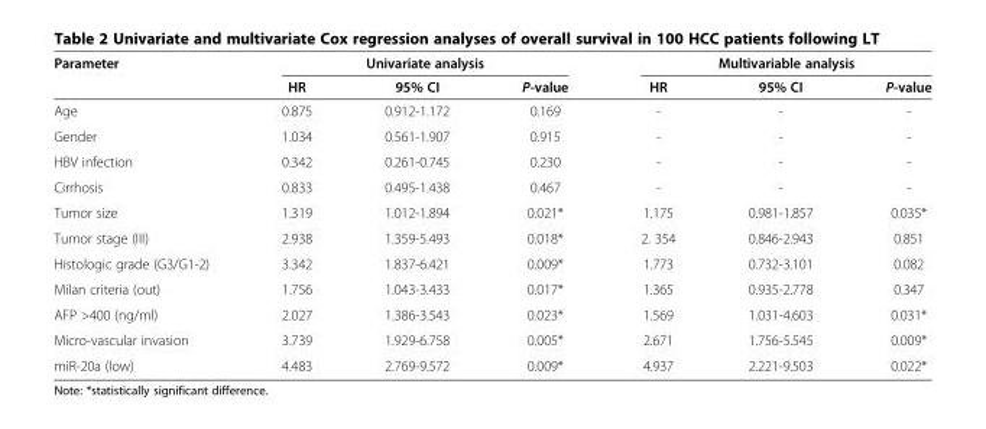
<table><thead><tr><td rowspan="2">Parameter</td><td colspan="3">Univariate analysis</td><td colspan="3">Multivariable analysis</td></tr><tr><td>HR</td><td>95% CI</td><td>P-value</td><td>HR</td><td>95% CI</td><td>P-value</td></tr></thead><tbody><tr><td>Age</td><td>0.875</td><td>0.912-1.172</td><td>0.169</td><td>-</td><td>-</td><td>-</td></tr><tr><td>Gender</td><td>1.034</td><td>0.561-1.907</td><td>0.915</td><td>-</td><td>-</td><td>-</td></tr><tr><td>HBV infection</td><td>0.342</td><td>0.261-0.745</td><td>0.230</td><td>-</td><td>-</td><td>-</td></tr><tr><td>Cirrhosis</td><td>0.833</td><td>0.495-1.438</td><td>0.467</td><td>-</td><td>-</td><td>-</td></tr><tr><td>Tumor size</td><td>1.319</td><td>1.012-1.894</td><td>0.021*</td><td>1.175</td><td>0.981-1.857</td><td>0.035*</td></tr><tr><td>Tumor stage (III)</td><td>2.938</td><td>1.359-5.493</td><td>0.018*</td><td>2. 354</td><td>0.846-2.943</td><td>0.851</td></tr><tr><td>Histologic grade (G3/G1-2)</td><td>3.342</td><td>1.837-6.421</td><td>0.009*</td><td>1.773</td><td>0.732-3.101</td><td>0.082</td></tr><tr><td>Milan criteria (out)</td><td>1.756</td><td>1.043-3.433</td><td>0.017*</td><td>1.365</td><td>0.935-2.778</td><td>0.347</td></tr><tr><td>AFP &gt;400 (ng/ml)</td><td>2.027</td><td>1.386-3.543</td><td>0.023*</td><td>1.569</td><td>1.031-4.603</td><td>0.031*</td></tr><tr><td>Micro-vascular invasion</td><td>3.739</td><td>1.929-6.758</td><td>0.005*</td><td>2.671</td><td>1.756-5.545</td><td>0.009*</td></tr><tr><td>miR-20a (low)</td><td>4.483</td><td>2.769-9.572</td><td>0.009*</td><td>4.937</td><td>2.221-9.503</td><td>0.022*</td></tr></tbody></table>